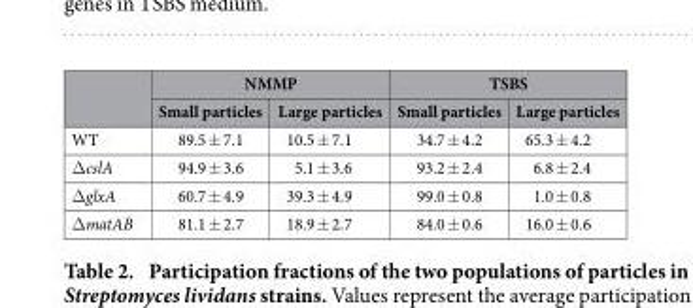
<table><thead><tr><td rowspan="2"></td><td colspan="2">NMMP</td><td colspan="2">TSBS</td></tr><tr><td>Small particles</td><td>Large particles</td><td>Small particles</td><td>Large particles</td></tr></thead><tbody><tr><td>WT</td><td>89.5 ± 7.1</td><td>10.5 ± 7.1</td><td>34.7 ± 4.2</td><td>65.3 ± 4.2</td></tr><tr><td>Δ cslA</td><td>94.9 ± 3.6</td><td>5.1 ± 3.6</td><td>93.2 ± 2.4</td><td>6.8 ± 2.4</td></tr><tr><td>Δ glxA</td><td>60.7 ± 4.9</td><td>39.3 ± 4.9</td><td>99.0 ± 0.8</td><td>1.0 ± 0.8</td></tr><tr><td>Δ matAB</td><td>81.1 ± 2.7</td><td>18.9 ± 2.7</td><td>84.0 ± 0.6</td><td>16.0 ± 0.6</td></tr></tbody></table>